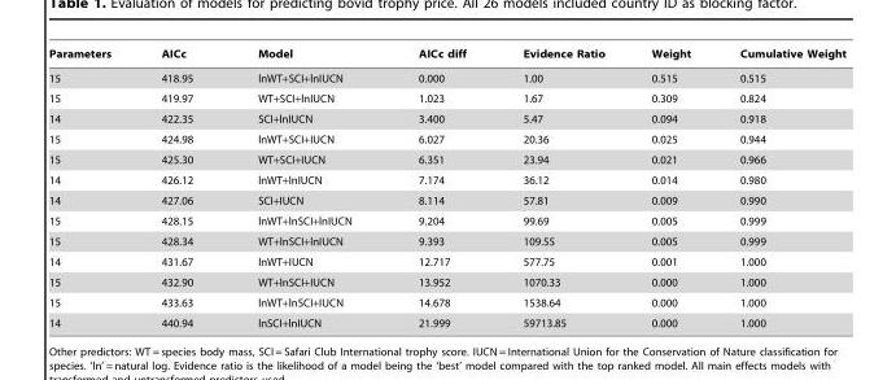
<table><thead><tr><td>Parameters</td><td>AICc</td><td>Model</td><td>AICc diff</td><td>Evidence Ratio</td><td>Weight</td><td>Cumulative Weight</td></tr></thead><tbody><tr><td>15</td><td>418.95</td><td>lnWT+SCI+lnIUCN</td><td>0.000</td><td>1.00</td><td>0.515</td><td>0.515</td></tr><tr><td>15</td><td>419.97</td><td>WT+SCI+lnIUCN</td><td>1.023</td><td>1.67</td><td>0.309</td><td>0.824</td></tr><tr><td>14</td><td>422.35</td><td>SCI+lnIUCN</td><td>3.400</td><td>5.47</td><td>0.094</td><td>0.918</td></tr><tr><td>15</td><td>424.98</td><td>lnWT+SCI+IUCN</td><td>6.027</td><td>20.36</td><td>0.025</td><td>0.944</td></tr><tr><td>15</td><td>425.30</td><td>WT+SCI+IUCN</td><td>6.351</td><td>23.94</td><td>0.021</td><td>0.966</td></tr><tr><td>14</td><td>426.12</td><td>lnWT+lnIUCN</td><td>7.174</td><td>36.12</td><td>0.014</td><td>0.980</td></tr><tr><td>14</td><td>427.06</td><td>SCI+IUCN</td><td>8.114</td><td>57.81</td><td>0.009</td><td>0.990</td></tr><tr><td>15</td><td>428.15</td><td>lnWT+lnSCI+lnIUCN</td><td>9.204</td><td>99.69</td><td>0.005</td><td>0.999</td></tr><tr><td>15</td><td>428.34</td><td>WT+lnSCI+lnIUCN</td><td>9.393</td><td>109.55</td><td>0.005</td><td>0.999</td></tr><tr><td>14</td><td>431.67</td><td>lnWT+IUCN</td><td>12.717</td><td>577.75</td><td>0.001</td><td>1.000</td></tr><tr><td>15</td><td>432.90</td><td>WT+lnSCI+IUCN</td><td>13.952</td><td>1070.33</td><td>0.000</td><td>1.000</td></tr><tr><td>15</td><td>433.63</td><td>lnWT+lnSCI+IUCN</td><td>14.678</td><td>1538.64</td><td>0.000</td><td>1.000</td></tr><tr><td>14</td><td>440.94</td><td>lnSCI+lnIUCN</td><td>21.999</td><td>59713.85</td><td>0.000</td><td>1.000</td></tr></tbody></table>